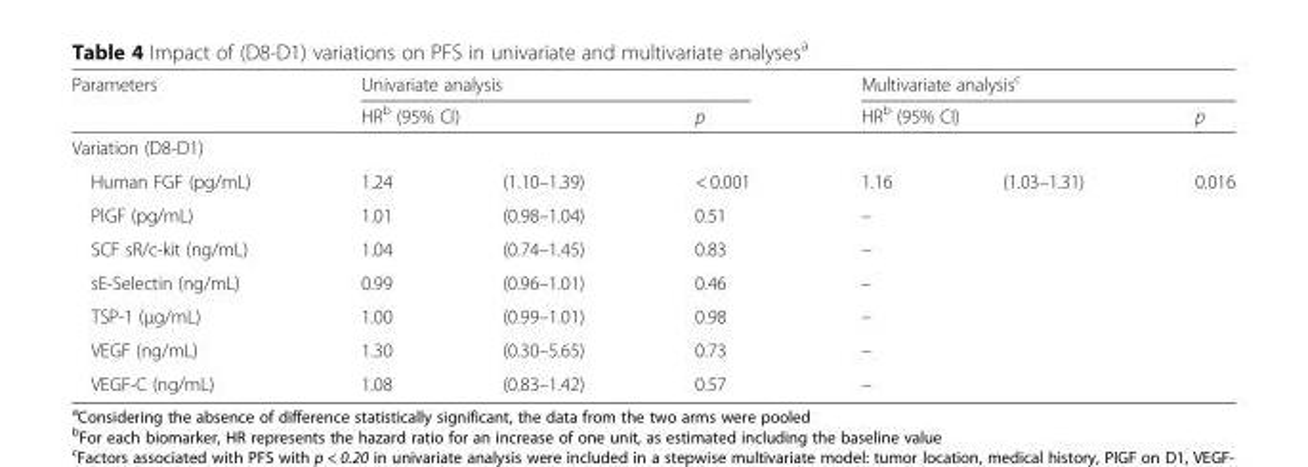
<table><thead><tr><td rowspan="2">Parameters</td><td colspan="3">Univariate analysis</td><td colspan="3">Multivariate analysis<sup>c</sup></td></tr><tr><td colspan="2">HR<sup>b</sup> (95% CI)</td><td>p</td><td colspan="2">HR<sup>b</sup> (95% CI)</td><td>p</td></tr><tr><td colspan="7">Variation (D8-D1)</td></tr><tr><td>Human FGF (pg/mL)</td><td>1.24</td><td>(1.10–1.39)</td><td>&lt; 0.001</td><td>1.16</td><td>(1.03–1.31)</td><td>0.016</td></tr></thead><tbody><tr><td>PlGF (pg/mL)</td><td>1.01</td><td>(0.98–1.04)</td><td>0.51</td><td>–</td><td></td><td></td></tr><tr><td>SCF sR/c-kit (ng/mL)</td><td>1.04</td><td>(0.74–1.45)</td><td>0.83</td><td>–</td><td></td><td></td></tr><tr><td>sE-Selectin (ng/mL)</td><td>0.99</td><td>(0.96–1.01)</td><td>0.46</td><td>–</td><td></td><td></td></tr><tr><td>TSP-1 (μg/mL)</td><td>1.00</td><td>(0.99–1.01)</td><td>0.98</td><td>–</td><td></td><td></td></tr><tr><td>VEGF (ng/mL)</td><td>1.30</td><td>(0.30–5.65)</td><td>0.73</td><td>–</td><td></td><td></td></tr><tr><td>VEGF-C (ng/mL)</td><td>1.08</td><td>(0.83–1.42)</td><td>0.57</td><td>–</td><td></td><td></td></tr></tbody></table>